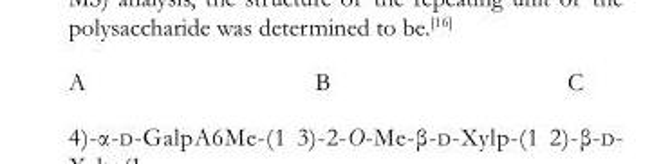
<table><tbody><tr><td>A</td><td>B</td><td>C</td></tr></tbody></table>